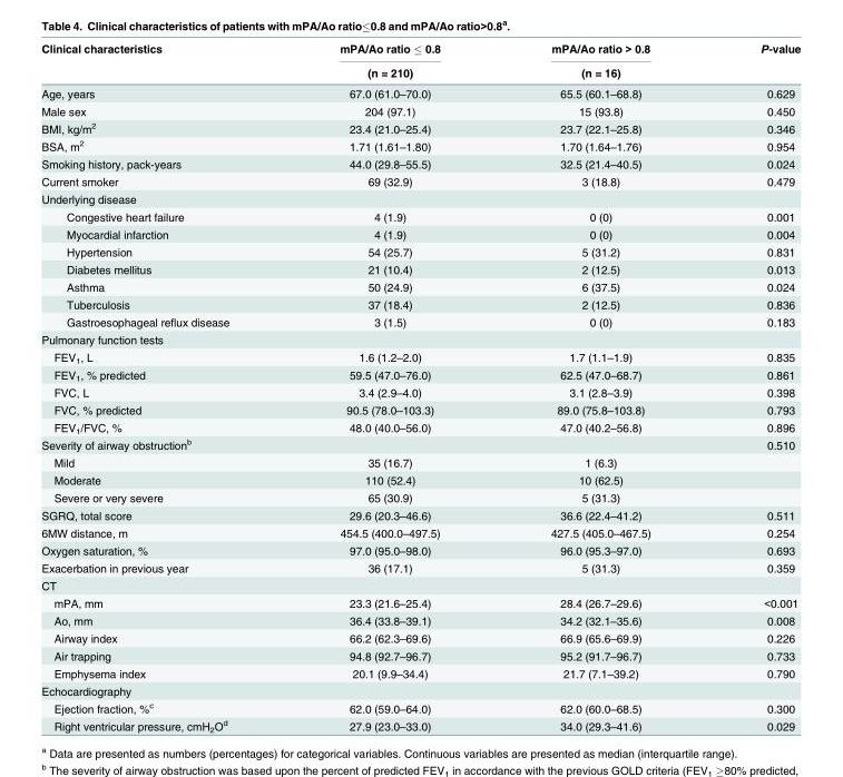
<table><thead><tr><td rowspan="2">Clinical characteristics</td><td rowspan="2">mPA/Ao ratio ≤ 0.8 (n = 210)</td><td rowspan="2">mPA/Ao ratio &gt; 0.8 (n = 16)</td><td rowspan="2">P-value</td></tr><tr></tr></thead><tbody><tr><td>Age, years</td><td>67.0 (61.0–70.0)</td><td>65.5 (60.1–68.8)</td><td>0.629</td></tr><tr><td>Male sex</td><td>204 (97.1)</td><td>15 (93.8)</td><td>0.450</td></tr><tr><td>BMI, kg/m<sup>2</sup></td><td>23.4 (21.0–25.4)</td><td>23.7 (22.1–25.8)</td><td>0.346</td></tr><tr><td>BSA, m<sup>2</sup></td><td>1.71 (1.61–1.80)</td><td>1.70 (1.64–1.76)</td><td>0.954</td></tr><tr><td>Smoking history, pack-years</td><td>44.0 (29.8–55.5)</td><td>32.5 (21.4–40.5)</td><td>0.024</td></tr><tr><td>Current smoker</td><td>69 (32.9)</td><td>3 (18.8)</td><td>0.479</td></tr><tr><td colspan="4">Underlying disease</td></tr><tr><td>Congestive heart failure</td><td>4 (1.9)</td><td>0 (0)</td><td>0.001</td></tr><tr><td>Myocardial infarction</td><td>4 (1.9)</td><td>0 (0)</td><td>0.004</td></tr><tr><td>Hypertension</td><td>54 (25.7)</td><td>5 (31.2)</td><td>0.831</td></tr><tr><td>Diabetes mellitus</td><td>21 (10.4)</td><td>2 (12.5)</td><td>0.013</td></tr><tr><td>Asthma</td><td>50 (24.9)</td><td>6 (37.5)</td><td>0.024</td></tr><tr><td>Tuberculosis</td><td>37 (18.4)</td><td>2 (12.5)</td><td>0.836</td></tr><tr><td>Gastroesophageal reflux disease</td><td>3 (1.5)</td><td>0 (0)</td><td>0.183</td></tr><tr><td colspan="4">Pulmonary function tests</td></tr><tr><td>FEV<sub>1</sub>, L</td><td>1.6 (1.2–2.0)</td><td>1.7 (1.1–1.9)</td><td>0.835</td></tr><tr><td>FEV<sub>1</sub>, % predicted</td><td>59.5 (47.0–76.0)</td><td>62.5 (47.0–68.7)</td><td>0.861</td></tr><tr><td>FVC, L</td><td>3.4 (2.9–4.0)</td><td>3.1 (2.8–3.9)</td><td>0.398</td></tr><tr><td>FVC, % predicted</td><td>90.5 (78.0–103.3)</td><td>89.0 (75.8–103.8)</td><td>0.793</td></tr><tr><td>FEV<sub>1</sub>/FVC, %</td><td>48.0 (40.0–56.0)</td><td>47.0 (40.2–56.8)</td><td>0.896</td></tr><tr><td>Severity of airway obstruction<sup>b</sup></td><td></td><td></td><td>0.510</td></tr><tr><td>Mild</td><td>35 (16.7)</td><td>1 (6.3)</td><td></td></tr><tr><td>Moderate</td><td>110 (52.4)</td><td>10 (62.5)</td><td></td></tr><tr><td>Severe or very severe</td><td>65 (30.9)</td><td>5 (31.3)</td><td></td></tr><tr><td>SGRQ, total score</td><td>29.6 (20.3–46.6)</td><td>36.6 (22.4–41.2)</td><td>0.511</td></tr><tr><td>6MW distance, m</td><td>454.5 (400.0–497.5)</td><td>427.5 (405.0–467.5)</td><td>0.254</td></tr><tr><td>Oxygen saturation, %</td><td>97.0 (95.0–98.0)</td><td>96.0 (95.3–97.0)</td><td>0.693</td></tr><tr><td>Exacerbation in previous year</td><td>36 (17.1)</td><td>5 (31.3)</td><td>0.359</td></tr><tr><td colspan="4">CT</td></tr><tr><td>mPA, mm</td><td>23.3 (21.6–25.4)</td><td>28.4 (26.7–29.6)</td><td>&lt;0.001</td></tr><tr><td>Ao, mm</td><td>36.4 (33.8–39.1)</td><td>34.2 (32.1–35.6)</td><td>0.008</td></tr><tr><td>Airway index</td><td>66.2 (62.3–69.6)</td><td>66.9 (65.6–69.9)</td><td>0.226</td></tr><tr><td>Air trapping</td><td>94.8 (92.7–96.7)</td><td>95.2 (91.7–96.7)</td><td>0.733</td></tr><tr><td>Emphysema index</td><td>20.1 (9.9–34.4)</td><td>21.7 (7.1–39.2)</td><td>0.790</td></tr><tr><td colspan="4">Echocardiography</td></tr><tr><td>Ejection fraction, %<sup>c</sup></td><td>62.0 (59.0–64.0)</td><td>62.0 (60.0–68.5)</td><td>0.300</td></tr><tr><td>Right ventricular pressure, cmH<sub>2</sub>O<sup>d</sup></td><td>27.9 (23.0–33.0)</td><td>34.0 (29.3–41.6)</td><td>0.029</td></tr></tbody></table>